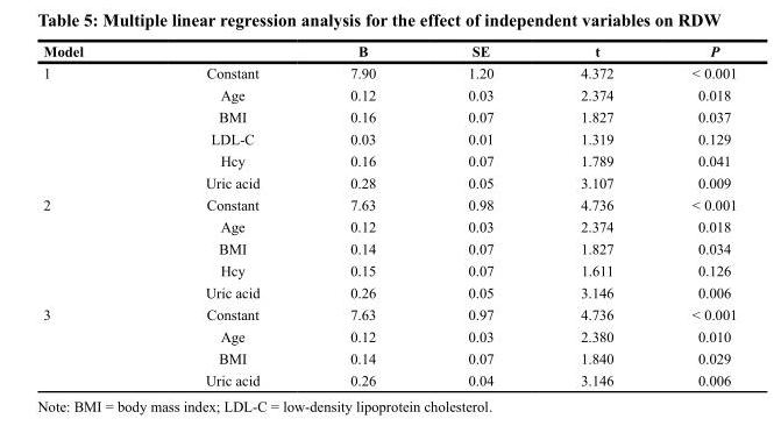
<table><thead><tr><td>Model</td><td></td><td>B</td><td>SE</td><td>t</td><td>P</td></tr></thead><tbody><tr><td rowspan="6">1</td><td>Constant</td><td>7.90</td><td>1.20</td><td>4.372</td><td>&lt; 0.001</td></tr><tr><td>Age</td><td>0.12</td><td>0.03</td><td>2.374</td><td>0.018</td></tr><tr><td>BMI</td><td>0.16</td><td>0.07</td><td>1.827</td><td>0.037</td></tr><tr><td>LDL-C</td><td>0.03</td><td>0.01</td><td>1.319</td><td>0.129</td></tr><tr><td>Hcy</td><td>0.16</td><td>0.07</td><td>1.789</td><td>0.041</td></tr><tr><td>Uric acid</td><td>0.28</td><td>0.05</td><td>3.107</td><td>0.009</td></tr><tr><td rowspan="5">2</td><td>Constant</td><td>7.63</td><td>0.98</td><td>4.736</td><td>&lt; 0.001</td></tr><tr><td>Age</td><td>0.12</td><td>0.03</td><td>2.374</td><td>0.018</td></tr><tr><td>BMI</td><td>0.14</td><td>0.07</td><td>1.827</td><td>0.034</td></tr><tr><td>Hcy</td><td>0.15</td><td>0.07</td><td>1.611</td><td>0.126</td></tr><tr><td>Uric acid</td><td>0.26</td><td>0.05</td><td>3.146</td><td>0.006</td></tr><tr><td rowspan="4">3</td><td>Constant</td><td>7.63</td><td>0.97</td><td>4.736</td><td>&lt; 0.001</td></tr><tr><td>Age</td><td>0.12</td><td>0.03</td><td>2.380</td><td>0.010</td></tr><tr><td>BMI</td><td>0.14</td><td>0.07</td><td>1.840</td><td>0.029</td></tr><tr><td>Uric acid</td><td>0.26</td><td>0.04</td><td>3.146</td><td>0.006</td></tr></tbody></table>